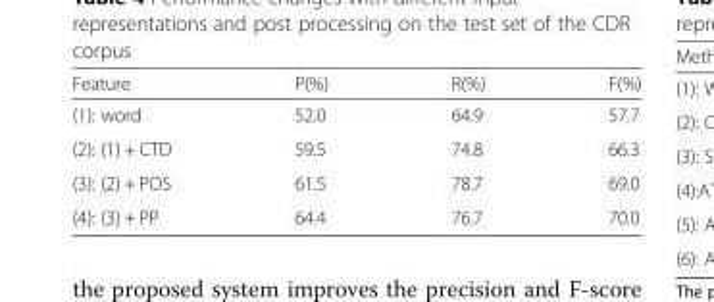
<table><thead><tr><td>Feature</td><td>P(%)</td><td>R(%)</td><td>F(%)</td></tr></thead><tbody><tr><td>(1): word</td><td>52.0</td><td>64.9</td><td>57.7</td></tr><tr><td>(2): (1) + CTD</td><td>59.5</td><td>74.8</td><td>66.3</td></tr><tr><td>(3): (2) + POS</td><td>61.5</td><td>78.7</td><td>69.0</td></tr><tr><td>(4): (3) + PP</td><td>64.4</td><td>76.7</td><td>70.0</td></tr></tbody></table>